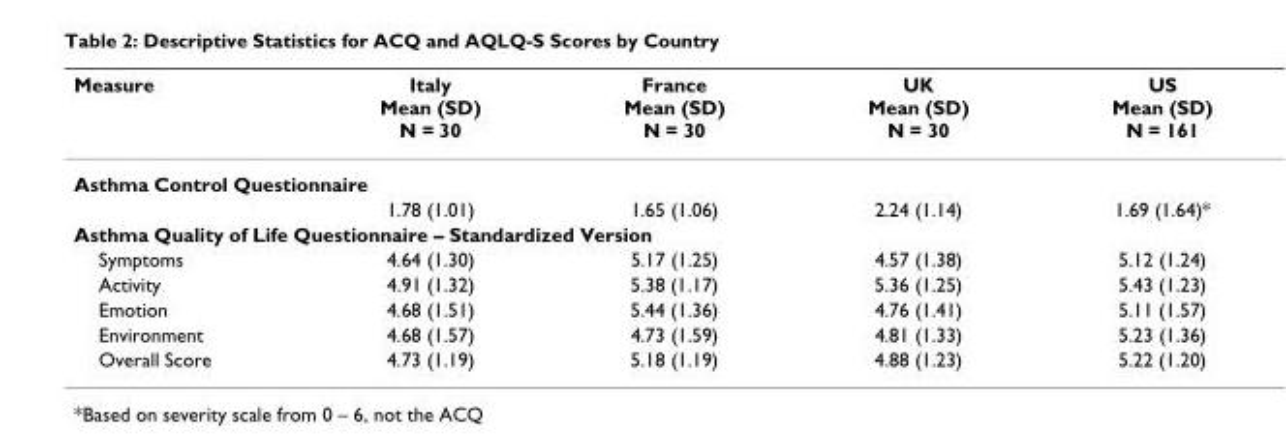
<table><thead><tr><td>Measure</td><td>Italy Mean (SD) N = 30</td><td>France Mean (SD) N = 30</td><td>UK Mean (SD) N = 30</td><td>US Mean (SD) N = 161</td></tr></thead><tbody><tr><td colspan="5">Asthma Control Questionnaire</td></tr><tr><td></td><td>1.78 (1.01)</td><td>1.65 (1.06)</td><td>2.24 (1.14)</td><td>1.69 (1.64)*</td></tr><tr><td colspan="5">Asthma Quality of Life Questionnaire – Standardized Version</td></tr><tr><td>Symptoms</td><td>4.64 (1.30)</td><td>5.17 (1.25)</td><td>4.57 (1.38)</td><td>5.12 (1.24)</td></tr><tr><td>Activity</td><td>4.91 (1.32)</td><td>5.38 (1.17)</td><td>5.36 (1.25)</td><td>5.43 (1.23)</td></tr><tr><td>Emotion</td><td>4.68 (1.51)</td><td>5.44 (1.36)</td><td>4.76 (1.41)</td><td>5.11 (1.57)</td></tr><tr><td>Environment</td><td>4.68 (1.57)</td><td>4.73 (1.59)</td><td>4.81 (1.33)</td><td>5.23 (1.36)</td></tr><tr><td>Overall Score</td><td>4.73 (1.19)</td><td>5.18 (1.19)</td><td>4.88 (1.23)</td><td>5.22 (1.20)</td></tr></tbody></table>